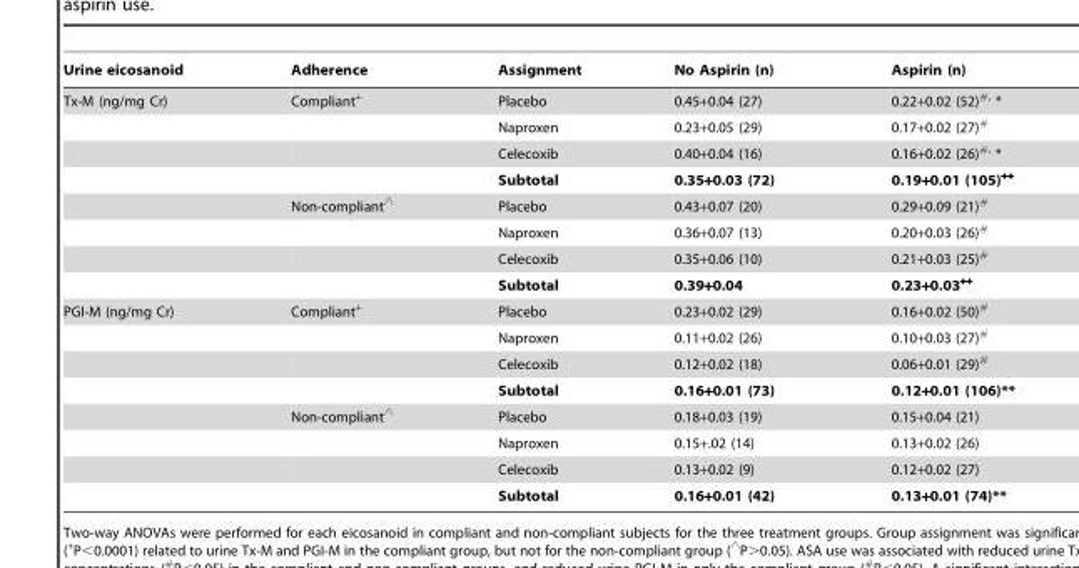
<table><thead><tr><td>Urine eicosanoid</td><td>Adherence</td><td>Assignment</td><td>No Aspirin (n)</td><td>Aspirin (n)</td></tr></thead><tbody><tr><td rowspan="8">Tx-M (ng/mg Cr)</td><td>Compliant<sup>+</sup></td><td>Placebo</td><td>0.45+0.04 (27)</td><td>0.22+0.02 (52)<sup>#,</sup> *</td></tr><tr><td></td><td>Naproxen</td><td>0.23+0.05 (29)</td><td>0.17+0.02 (27)<sup>#</sup></td></tr><tr><td></td><td>Celecoxib</td><td>0.40+0.04 (16)</td><td>0.16+0.02 (26)<sup>#,</sup> *</td></tr><tr><td></td><td>Subtotal</td><td>0.35+0.03 (72)</td><td>0.19+0.01 (105)<sup>++</sup></td></tr><tr><td>Non-compliant‘</td><td>Placebo</td><td>0.43+0.07 (20)</td><td>0.29+0.09 (21)<sup>#</sup></td></tr><tr><td></td><td>Naproxen</td><td>0.36+0.07 (13)</td><td>0.20+0.03 (26)<sup>#</sup></td></tr><tr><td></td><td>Celecoxib</td><td>0.35+0.06 (10)</td><td>0.21+0.03 (25)<sup>#</sup></td></tr><tr><td></td><td>Subtotal</td><td>0.39+0.04</td><td>0.23+0.03<sup>++</sup></td></tr><tr><td rowspan="8">PGI-M (ng/mg Cr)</td><td>Compliant<sup>+</sup></td><td>Placebo</td><td>0.23+0.02 (29)</td><td>0.16+0.02 (50)<sup>#</sup></td></tr><tr><td></td><td>Naproxen</td><td>0.11+0.02 (26)</td><td>0.10+0.03 (27)<sup>#</sup></td></tr><tr><td></td><td>Celecoxib</td><td>0.12+0.02 (18)</td><td>0.06+0.01 (29)<sup>#</sup></td></tr><tr><td></td><td>Subtotal</td><td>0.16+0.01 (73)</td><td>0.12+0.01 (106)**</td></tr><tr><td>Non-compliant‘</td><td>Placebo</td><td>0.18+0.03 (19)</td><td>0.15+0.04 (21)</td></tr><tr><td></td><td>Naproxen</td><td>0.15+.02 (14)</td><td>0.13+0.02 (26)</td></tr><tr><td></td><td>Celecoxib</td><td>0.13+0.02 (9)</td><td>0.12+0.02 (27)</td></tr><tr><td></td><td>Subtotal</td><td>0.16+0.01 (42)</td><td>0.13+0.01 (74)**</td></tr></tbody></table>